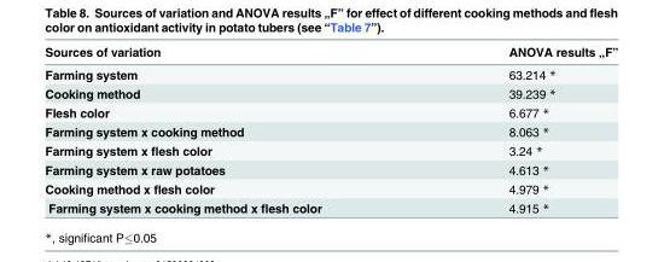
<table><thead><tr><td>Sources of variation</td><td>ANOVA results „F”</td></tr></thead><tbody><tr><td>Farming system</td><td>63.214 *</td></tr><tr><td>Cooking method</td><td>39.239 *</td></tr><tr><td>Flesh color</td><td>6.677 *</td></tr><tr><td>Farming system x cooking method</td><td>8.063 *</td></tr><tr><td>Farming system x flesh color</td><td>3.24 *</td></tr><tr><td>Farming system x raw potatoes</td><td>4.613 *</td></tr><tr><td>Cooking method x flesh color</td><td>4.979 *</td></tr><tr><td>Farming system x cooking method x flesh color</td><td>4.915 *</td></tr></tbody></table>